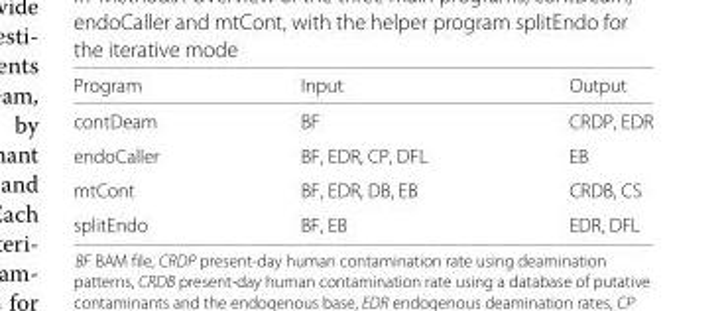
<table><thead><tr><td>Program</td><td>Input</td><td>Output</td></tr></thead><tbody><tr><td>contDeam</td><td>BF</td><td>CRDP, EDR</td></tr><tr><td>endoCaller</td><td>BF, EDR, CP, DFL</td><td>EB</td></tr><tr><td>mtCont</td><td>BF, EDR, DB, EB</td><td>CRDB, CS</td></tr><tr><td>splitEndo</td><td>BF, EB</td><td>EDR, DFL</td></tr></tbody></table>